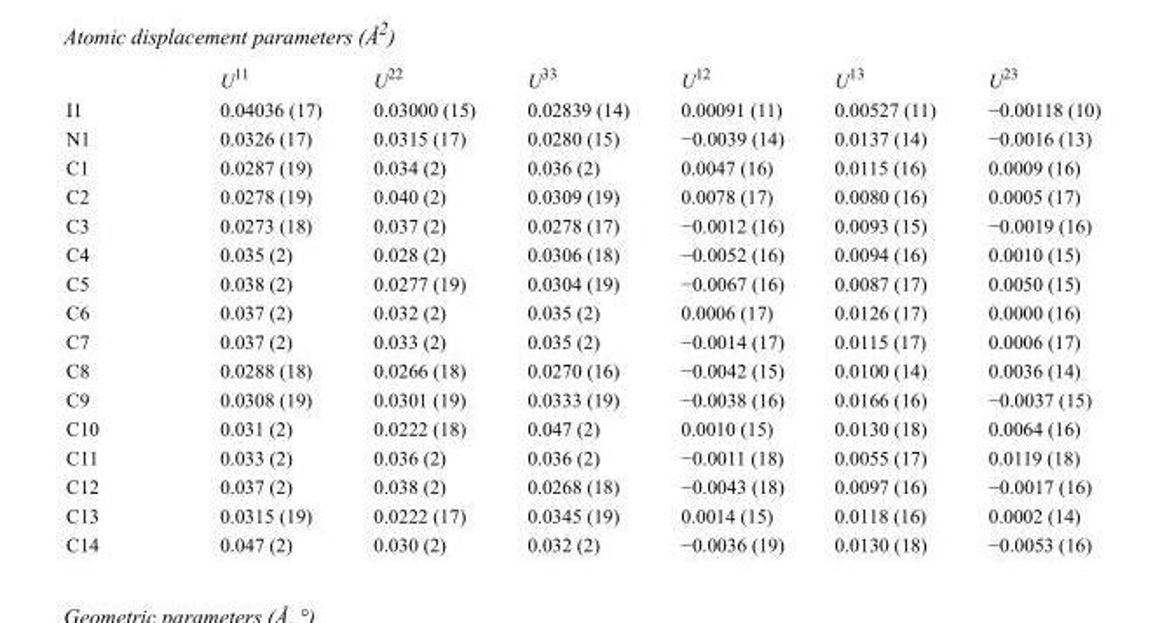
<table><thead><tr><td></td><td>U<sup>11</sup></td><td>U<sup>22</sup></td><td>U<sup>33</sup></td><td>U<sup>12</sup></td><td>U<sup>13</sup></td><td>U<sup>23</sup></td></tr></thead><tbody><tr><td>I1</td><td>0.04036 (17)</td><td>0.03000 (15)</td><td>0.02839 (14)</td><td>0.00091 (11)</td><td>0.00527 (11)</td><td>−0.00118 (10)</td></tr><tr><td>N1</td><td>0.0326 (17)</td><td>0.0315 (17)</td><td>0.0280 (15)</td><td>−0.0039 (14)</td><td>0.0137 (14)</td><td>−0.0016 (13)</td></tr><tr><td>C1</td><td>0.0287 (19)</td><td>0.034 (2)</td><td>0.036 (2)</td><td>0.0047 (16)</td><td>0.0115 (16)</td><td>0.0009 (16)</td></tr><tr><td>C2</td><td>0.0278 (19)</td><td>0.040 (2)</td><td>0.0309 (19)</td><td>0.0078 (17)</td><td>0.0080 (16)</td><td>0.0005 (17)</td></tr><tr><td>C3</td><td>0.0273 (18)</td><td>0.037 (2)</td><td>0.0278 (17)</td><td>−0.0012 (16)</td><td>0.0093 (15)</td><td>−0.0019 (16)</td></tr><tr><td>C4</td><td>0.035 (2)</td><td>0.028 (2)</td><td>0.0306 (18)</td><td>−0.0052 (16)</td><td>0.0094 (16)</td><td>0.0010 (15)</td></tr><tr><td>C5</td><td>0.038 (2)</td><td>0.0277 (19)</td><td>0.0304 (19)</td><td>−0.0067 (16)</td><td>0.0087 (17)</td><td>0.0050 (15)</td></tr><tr><td>C6</td><td>0.037 (2)</td><td>0.032 (2)</td><td>0.035 (2)</td><td>0.0006 (17)</td><td>0.0126 (17)</td><td>0.0000 (16)</td></tr><tr><td>C7</td><td>0.037 (2)</td><td>0.033 (2)</td><td>0.035 (2)</td><td>−0.0014 (17)</td><td>0.0115 (17)</td><td>0.0006 (17)</td></tr><tr><td>C8</td><td>0.0288 (18)</td><td>0.0266 (18)</td><td>0.0270 (16)</td><td>−0.0042 (15)</td><td>0.0100 (14)</td><td>0.0036 (14)</td></tr><tr><td>C9</td><td>0.0308 (19)</td><td>0.0301 (19)</td><td>0.0333 (19)</td><td>−0.0038 (16)</td><td>0.0166 (16)</td><td>−0.0037 (15)</td></tr><tr><td>C10</td><td>0.031 (2)</td><td>0.0222 (18)</td><td>0.047 (2)</td><td>0.0010 (15)</td><td>0.0130 (18)</td><td>0.0064 (16)</td></tr><tr><td>C11</td><td>0.033 (2)</td><td>0.036 (2)</td><td>0.036 (2)</td><td>−0.0011 (18)</td><td>0.0055 (17)</td><td>0.0119 (18)</td></tr><tr><td>C12</td><td>0.037 (2)</td><td>0.038 (2)</td><td>0.0268 (18)</td><td>−0.0043 (18)</td><td>0.0097 (16)</td><td>−0.0017 (16)</td></tr><tr><td>C13</td><td>0.0315 (19)</td><td>0.0222 (17)</td><td>0.0345 (19)</td><td>0.0014 (15)</td><td>0.0118 (16)</td><td>0.0002 (14)</td></tr><tr><td>C14</td><td>0.047 (2)</td><td>0.030 (2)</td><td>0.032 (2)</td><td>−0.0036 (19)</td><td>0.0130 (18)</td><td>−0.0053 (16)</td></tr></tbody></table>